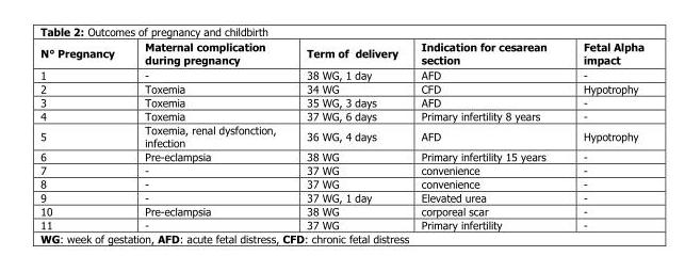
<table><thead><tr><td>N° Pregnancy</td><td>Maternal complication during pregnancy</td><td>Term of delivery</td><td>Indication for cesarean section</td><td>Fetal Alpha impact</td></tr></thead><tbody><tr><td>1</td><td>-</td><td>38 WG, 1 day</td><td>AFD</td><td>-</td></tr><tr><td>2</td><td>Toxemia</td><td>34 WG</td><td>CFD</td><td>Hypotrophy</td></tr><tr><td>3</td><td>Toxemia</td><td>35 WG, 3 days</td><td>AFD</td><td>-</td></tr><tr><td>4</td><td>Toxemia</td><td>37 WG, 6 days</td><td>Primary infertility 8 years</td><td>-</td></tr><tr><td>5</td><td>Toxemia, renal dysfonction, infection</td><td>36 WG, 4 days</td><td>AFD</td><td>Hypotrophy</td></tr><tr><td>6</td><td>Pre-eclampsia</td><td>38 WG</td><td>Primary infertility 15 years</td><td>-</td></tr><tr><td>7</td><td>-</td><td>37 WG</td><td>convenience</td><td>-</td></tr><tr><td>8</td><td>-</td><td>37 WG</td><td>convenience</td><td>-</td></tr><tr><td>9</td><td>-</td><td>37 WG, 1 day</td><td>Elevated urea</td><td>-</td></tr><tr><td>10</td><td>Pre-eclampsia</td><td>38 WG</td><td>corporeal scar</td><td>-</td></tr><tr><td>11</td><td>-</td><td>37 WG</td><td>Primary infertility</td><td>-</td></tr></tbody></table>